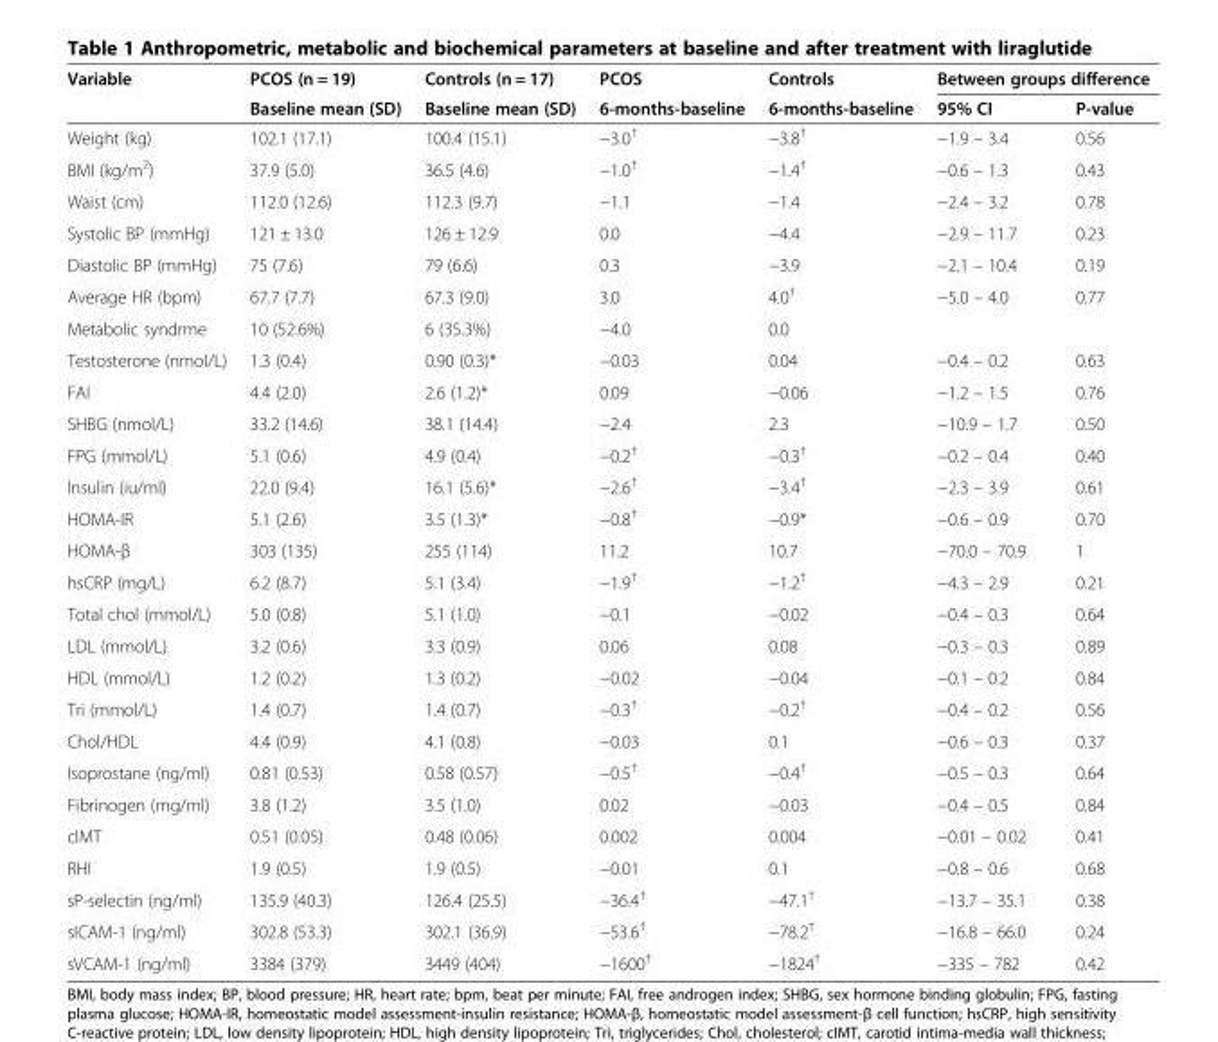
<table><thead><tr><td rowspan="2">Variable</td><td rowspan="2">PCOS (n = 19) Baseline mean (SD)</td><td rowspan="2">Controls (n = 17) Baseline mean (SD)</td><td rowspan="2">PCOS 6-months-baseline</td><td rowspan="2">Controls 6-months-baseline</td><td colspan="2">Between groups difference</td></tr><tr><td>95% CI</td><td>P-value</td></tr></thead><tbody><tr><td>Weight (kg)</td><td>102.1 (17.1)</td><td>100.4 (15.1)</td><td>−3.0<sup>†</sup></td><td>−3.8<sup>†</sup></td><td>−1.9 – 3.4</td><td>0.56</td></tr><tr><td>BMI (kg/m<sup>2</sup>)</td><td>37.9 (5.0)</td><td>36.5 (4.6)</td><td>−1.0<sup>†</sup></td><td>−1.4<sup>†</sup></td><td>−0.6 – 1.3</td><td>0.43</td></tr><tr><td>Waist (cm)</td><td>112.0 (12.6)</td><td>112.3 (9.7)</td><td>−1.1</td><td>−1.4</td><td>−2.4 – 3.2</td><td>0.78</td></tr><tr><td>Systolic BP (mmHg)</td><td>121 ± 13.0</td><td>126 ± 12.9</td><td>0.0</td><td>−4.4</td><td>−2.9 – 11.7</td><td>0.23</td></tr><tr><td>Diastolic BP (mmHg)</td><td>75 (7.6)</td><td>79 (6.6)</td><td>0.3</td><td>−3.9</td><td>−2.1 – 10.4</td><td>0.19</td></tr><tr><td>Average HR (bpm)</td><td>67.7 (7.7)</td><td>67.3 (9.0)</td><td>3.0</td><td>4.0<sup>†</sup></td><td>−5.0 – 4.0</td><td>0.77</td></tr><tr><td>Metabolic syndrme</td><td>10 (52.6%)</td><td>6 (35.3%)</td><td>−4.0</td><td>0.0</td><td></td><td></td></tr><tr><td>Testosterone (nmol/L)</td><td>1.3 (0.4)</td><td>0.90 (0.3)*</td><td>−0.03</td><td>0.04</td><td>−0.4 – 0.2</td><td>0.63</td></tr><tr><td>FAI</td><td>4.4 (2.0)</td><td>2.6 (1.2)*</td><td>0.09</td><td>−0.06</td><td>−1.2 – 1.5</td><td>0.76</td></tr><tr><td>SHBG (nmol/L)</td><td>33.2 (14.6)</td><td>38.1 (14.4)</td><td>−2.4</td><td>2.3</td><td>−10.9 – 1.7</td><td>0.50</td></tr><tr><td>FPG (mmol/L)</td><td>5.1 (0.6)</td><td>4.9 (0.4)</td><td>−0.2<sup>†</sup></td><td>−0.3<sup>†</sup></td><td>−0.2 – 0.4</td><td>0.40</td></tr><tr><td>Insulin (iu/ml)</td><td>22.0 (9.4)</td><td>16.1 (5.6)*</td><td>−2.6<sup>†</sup></td><td>−3.4<sup>†</sup></td><td>−2.3 – 3.9</td><td>0.61</td></tr><tr><td>HOMA-IR</td><td>5.1 (2.6)</td><td>3.5 (1.3)*</td><td>−0.8<sup>†</sup></td><td>−0.9*</td><td>−0.6 – 0.9</td><td>0.70</td></tr><tr><td>HOMA-β</td><td>303 (135)</td><td>255 (114)</td><td>11.2</td><td>10.7</td><td>−70.0 – 70.9</td><td>1</td></tr><tr><td>hsCRP (mg/L)</td><td>6.2 (8.7)</td><td>5.1 (3.4)</td><td>−1.9<sup>†</sup></td><td>−1.2<sup>†</sup></td><td>−4.3 – 2.9</td><td>0.21</td></tr><tr><td>Total chol (mmol/L)</td><td>5.0 (0.8)</td><td>5.1 (1.0)</td><td>−0.1</td><td>−0.02</td><td>−0.4 – 0.3</td><td>0.64</td></tr><tr><td>LDL (mmol/L)</td><td>3.2 (0.6)</td><td>3.3 (0.9)</td><td>0.06</td><td>0.08</td><td>−0.3 – 0.3</td><td>0.89</td></tr><tr><td>HDL (mmol/L)</td><td>1.2 (0.2)</td><td>1.3 (0.2)</td><td>−0.02</td><td>−0.04</td><td>−0.1 – 0.2</td><td>0.84</td></tr><tr><td>Tri (mmol/L)</td><td>1.4 (0.7)</td><td>1.4 (0.7)</td><td>−0.3<sup>†</sup></td><td>−0.2<sup>†</sup></td><td>−0.4 – 0.2</td><td>0.56</td></tr><tr><td>Chol/HDL</td><td>4.4 (0.9)</td><td>4.1 (0.8)</td><td>−0.03</td><td>0.1</td><td>−0.6 – 0.3</td><td>0.37</td></tr><tr><td>Isoprostane (ng/ml)</td><td>0.81 (0.53)</td><td>0.58 (0.57)</td><td>−0.5<sup>†</sup></td><td>−0.4<sup>†</sup></td><td>−0.5 – 0.3</td><td>0.64</td></tr><tr><td>Fibrinogen (mg/ml)</td><td>3.8 (1.2)</td><td>3.5 (1.0)</td><td>0.02</td><td>−0.03</td><td>−0.4 – 0.5</td><td>0.84</td></tr><tr><td>cIMT</td><td>0.51 (0.05)</td><td>0.48 (0.06)</td><td>0.002</td><td>0.004</td><td>−0.01 – 0.02</td><td>0.41</td></tr><tr><td>RHI</td><td>1.9 (0.5)</td><td>1.9 (0.5)</td><td>−0.01</td><td>0.1</td><td>−0.8 – 0.6</td><td>0.68</td></tr><tr><td>sP-selectin (ng/ml)</td><td>135.9 (40.3)</td><td>126.4 (25.5)</td><td>−36.4<sup>†</sup></td><td>−47.1<sup>†</sup></td><td>−13.7 – 35.1</td><td>0.38</td></tr><tr><td>sICAM-1 (ng/ml)</td><td>302.8 (53.3)</td><td>302.1 (36.9)</td><td>−53.6<sup>†</sup></td><td>−78.2<sup>†</sup></td><td>−16.8 – 66.0</td><td>0.24</td></tr><tr><td>sVCAM-1 (ng/ml)</td><td>3384 (379)</td><td>3449 (404)</td><td>−1600<sup>†</sup></td><td>−1824<sup>†</sup></td><td>−335 – 782</td><td>0.42</td></tr></tbody></table>